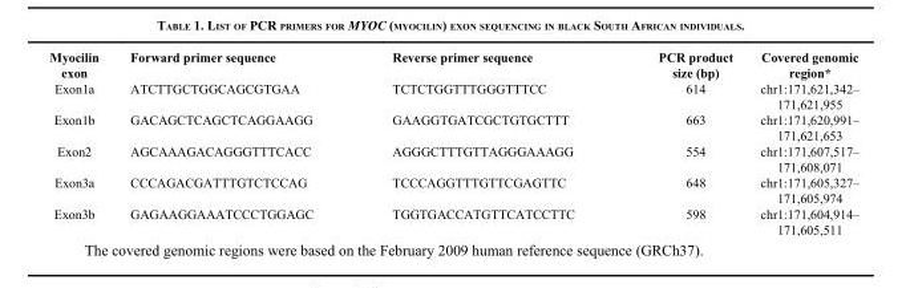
<table><thead><tr><td>Myocilin exon</td><td>Forward primer sequence</td><td>Reverse primer sequence</td><td>PCR product size (bp)</td><td>Covered genomic region*</td></tr></thead><tbody><tr><td>Exon1a</td><td>ATCTTGCTGGCAGCGTGAA</td><td>TCTCTGGTTTGGGTTTCC</td><td>614</td><td>chr1:171,621,342– 171,621,955</td></tr><tr><td>Exon1b</td><td>GACAGCTCAGCTCAGGAAGG</td><td>GAAGGTGATCGCTGTGCTTT</td><td>663</td><td>chr1:171,620,991– 171,621,653</td></tr><tr><td>Exon2</td><td>AGCAAAGACAGGGTTTCACC</td><td>AGGGCTTTGTTAGGGAAAGG</td><td>554</td><td>chr1:171,607,517– 171,608,071</td></tr><tr><td>Exon3a</td><td>CCCAGACGATTTGTCTCCAG</td><td>TCCCAGGTTTGTTCGAGTTC</td><td>648</td><td>chr1:171,605,327– 171,605,974</td></tr><tr><td>Exon3b</td><td>GAGAAGGAAATCCCTGGAGC</td><td>TGGTGACCATGTTCATCCTTC</td><td>598</td><td>chr1:171,604,914– 171,605,511</td></tr></tbody></table>